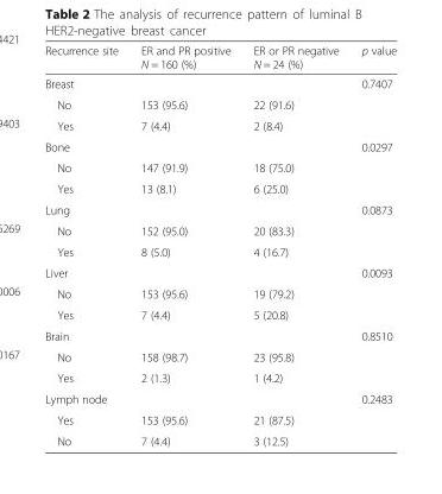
<table><thead><tr><td>Recurrence site</td><td>ER and PR positive N = 160 (%)</td><td>ER or PR negative N = 24 (%)</td><td>p value</td></tr></thead><tbody><tr><td colspan="3">Breast</td><td rowspan="3">0.7407</td></tr><tr><td>No</td><td>153 (95.6)</td><td>22 (91.6)</td></tr><tr><td>Yes</td><td>7 (4.4)</td><td>2 (8.4)</td></tr><tr><td colspan="3">Bone</td><td rowspan="3">0.0297</td></tr><tr><td>No</td><td>147 (91.9)</td><td>18 (75.0)</td></tr><tr><td>Yes</td><td>13 (8.1)</td><td>6 (25.0)</td></tr><tr><td colspan="3">Lung</td><td rowspan="3">0.0873</td></tr><tr><td>No</td><td>152 (95.0)</td><td>20 (83.3)</td></tr><tr><td>Yes</td><td>8 (5.0)</td><td>4 (16.7)</td></tr><tr><td colspan="3">Liver</td><td rowspan="3">0.0093</td></tr><tr><td>No</td><td>153 (95.6)</td><td>19 (79.2)</td></tr><tr><td>Yes</td><td>7 (4.4)</td><td>5 (20.8)</td></tr><tr><td colspan="3">Brain</td><td rowspan="3">0.8510</td></tr><tr><td>No</td><td>158 (98.7)</td><td>23 (95.8)</td></tr><tr><td>Yes</td><td>2 (1.3)</td><td>1 (4.2)</td></tr><tr><td colspan="3">Lymph node</td><td rowspan="3">0.2483</td></tr><tr><td>Yes</td><td>153 (95.6)</td><td>21 (87.5)</td></tr><tr><td>No</td><td>7 (4.4)</td><td>3 (12.5)</td></tr></tbody></table>